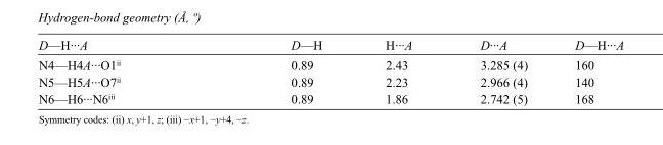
<table><tbody><tr><td>D—H···A</td><td>D—H</td><td>H···A</td><td>D···A</td><td>D—H···A</td></tr><tr><td>N4—H4A···O1<sup>ii</sup></td><td>0.89</td><td>2.43</td><td>3.285 (4)</td><td>160</td></tr><tr><td>N5—H5A···O7<sup>ii</sup></td><td>0.89</td><td>2.23</td><td>2.966 (4)</td><td>140</td></tr><tr><td>N6—H6···N6<sup>iii</sup></td><td>0.89</td><td>1.86</td><td>2.742 (5)</td><td>168</td></tr></tbody></table>